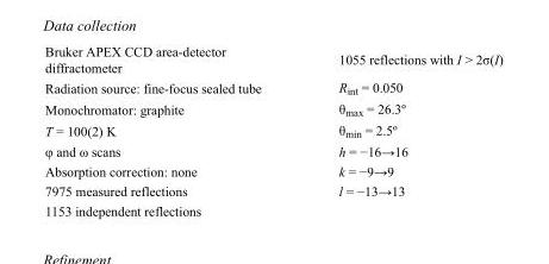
<table><tbody><tr><td>Bruker APEX CCD area-detector diffractometer</td><td>1055 reflections with I &gt; 2σ(I)</td></tr><tr><td>Radiation source: fine-focus sealed tube</td><td>R<sub>int</sub> = 0.050</td></tr><tr><td>Monochromator: graphite</td><td>θ<sub>max</sub> = 26.3º</td></tr><tr><td>T = 100(2) K</td><td>θ<sub>min</sub> = 2.5º</td></tr><tr><td>φ and ω scans</td><td>h = −16→16</td></tr><tr><td>Absorption correction: none</td><td>k = −9→9</td></tr><tr><td>7975 measured reflections</td><td>l = −13→13</td></tr><tr><td>1153 independent reflections</td><td></td></tr></tbody></table>